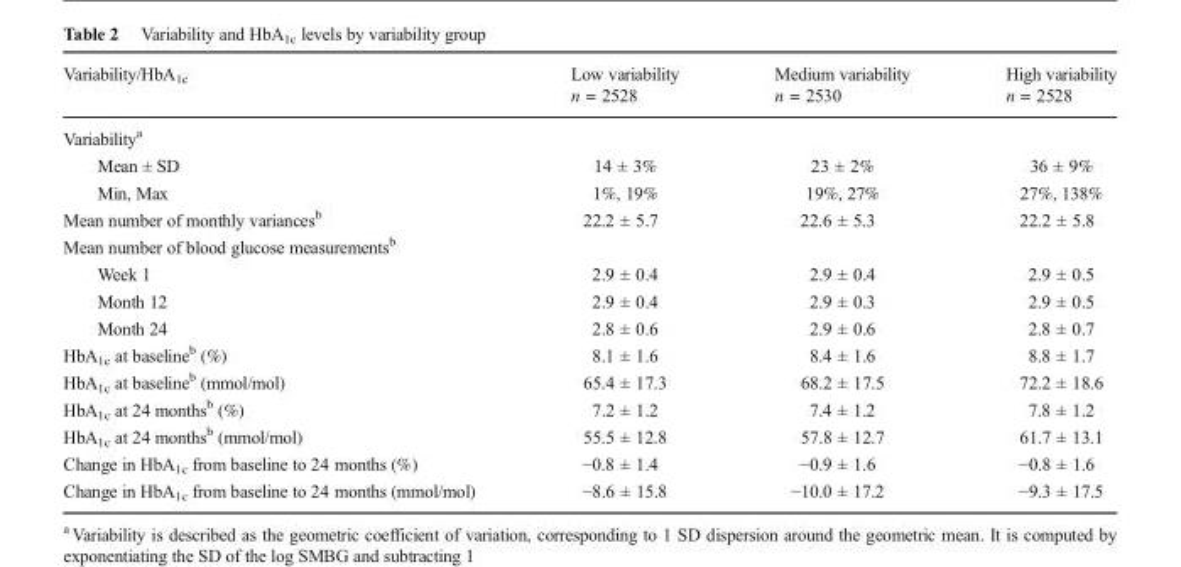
<table><thead><tr><td>Variability/HbA<sub>1c</sub></td><td>Low variability n = 2528</td><td>Medium variability n = 2530</td><td>High variability n = 2528</td></tr></thead><tbody><tr><td colspan="4">Variability<sup>a</sup></td></tr><tr><td>Mean ± SD</td><td>14 ± 3%</td><td>23 ± 2%</td><td>36 ± 9%</td></tr><tr><td>Min, Max</td><td>1%, 19%</td><td>19%, 27%</td><td>27%, 138%</td></tr><tr><td>Mean number of monthly variances<sup>b</sup></td><td>22.2 ± 5.7</td><td>22.6 ± 5.3</td><td>22.2 ± 5.8</td></tr><tr><td colspan="4">Mean number of blood glucose measurements<sup>b</sup></td></tr><tr><td>Week 1</td><td>2.9 ± 0.4</td><td>2.9 ± 0.4</td><td>2.9 ± 0.5</td></tr><tr><td>Month 12</td><td>2.9 ± 0.4</td><td>2.9 ± 0.3</td><td>2.9 ± 0.5</td></tr><tr><td>Month 24</td><td>2.8 ± 0.6</td><td>2.9 ± 0.6</td><td>2.8 ± 0.7</td></tr><tr><td>HbA<sub>1c</sub> at baseline<sup>b</sup> (%)</td><td>8.1 ± 1.6</td><td>8.4 ± 1.6</td><td>8.8 ± 1.7</td></tr><tr><td>HbA<sub>1c</sub> at baseline<sup>b</sup> (mmol/mol)</td><td>65.4 ± 17.3</td><td>68.2 ± 17.5</td><td>72.2 ± 18.6</td></tr><tr><td>HbA<sub>1c</sub> at 24 months<sup>b</sup> (%)</td><td>7.2 ± 1.2</td><td>7.4 ± 1.2</td><td>7.8 ± 1.2</td></tr><tr><td>HbA<sub>1c</sub> at 24 months<sup>b</sup> (mmol/mol)</td><td>55.5 ± 12.8</td><td>57.8 ± 12.7</td><td>61.7 ± 13.1</td></tr><tr><td>Change in HbA<sub>1c</sub> from baseline to 24 months (%)</td><td>−0.8 ± 1.4</td><td>−0.9 ± 1.6</td><td>−0.8 ± 1.6</td></tr><tr><td>Change in HbA<sub>1c</sub> from baseline to 24 months (mmol/mol)</td><td>−8.6 ± 15.8</td><td>−10.0 ± 17.2</td><td>−9.3 ± 17.5</td></tr></tbody></table>